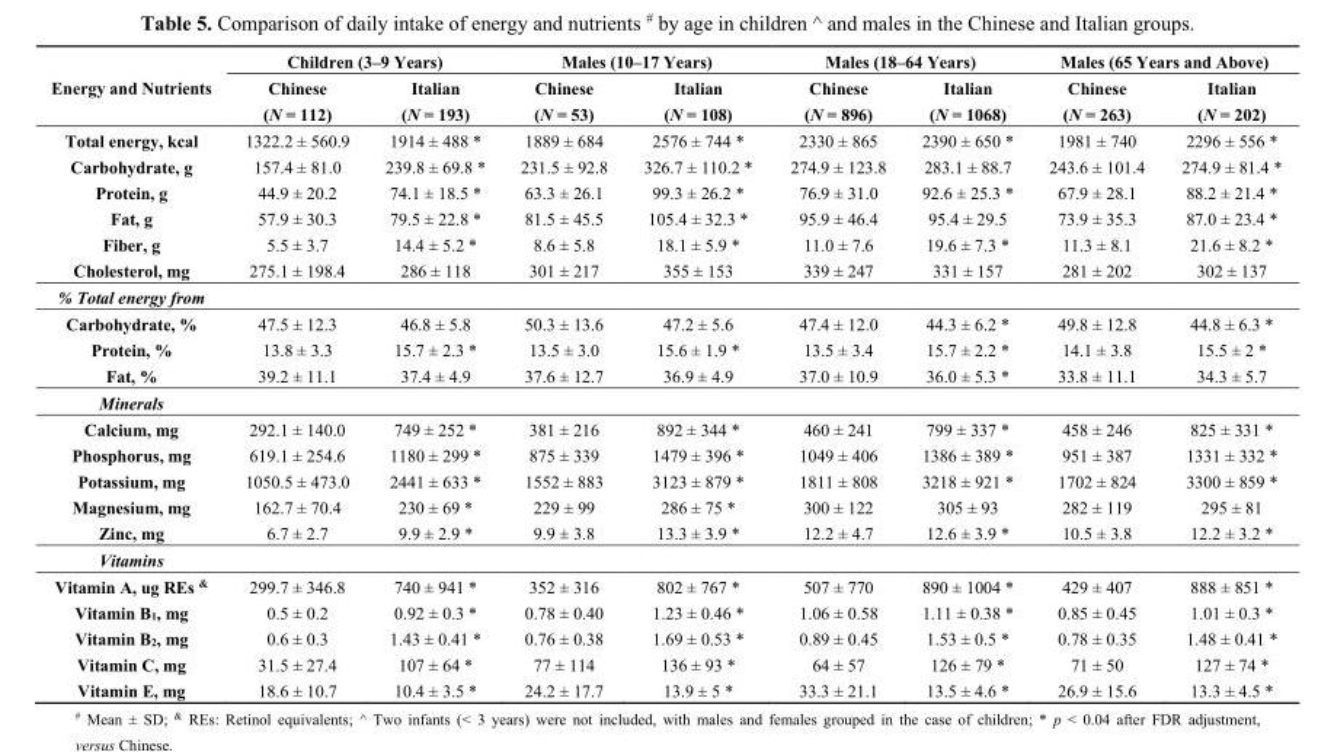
<table><thead><tr><td rowspan="2">Energy and Nutrients</td><td colspan="2">Children (3–9 Years)</td><td colspan="2">Males (10–17 Years)</td><td colspan="2">Males (18–64 Years)</td><td colspan="2">Males (65 Years and Above)</td></tr><tr><td>Chinese (N = 112)</td><td>Italian (N = 193)</td><td>Chinese (N = 53)</td><td>Italian (N = 108)</td><td>Chinese (N = 896)</td><td>Italian (N = 1068)</td><td>Chinese (N = 263)</td><td>Italian (N = 202)</td></tr></thead><tbody><tr><td>Total energy, kcal</td><td>1322.2 ± 560.9</td><td>1914 ± 488 *</td><td>1889 ± 684</td><td>2576 ± 744 *</td><td>2330 ± 865</td><td>2390 ± 650 *</td><td>1981 ± 740</td><td>2296 ± 556 *</td></tr><tr><td>Carbohydrate, g</td><td>157.4 ± 81.0</td><td>239.8 ± 69.8 *</td><td>231.5 ± 92.8</td><td>326.7 ± 110.2 *</td><td>274.9 ± 123.8</td><td>283.1 ± 88.7</td><td>243.6 ± 101.4</td><td>274.9 ± 81.4 *</td></tr><tr><td>Protein, g</td><td>44.9 ± 20.2</td><td>74.1 ± 18.5 *</td><td>63.3 ± 26.1</td><td>99.3 ± 26.2 *</td><td>76.9 ± 31.0</td><td>92.6 ± 25.3 *</td><td>67.9 ± 28.1</td><td>88.2 ± 21.4 *</td></tr><tr><td>Fat, g</td><td>57.9 ± 30.3</td><td>79.5 ± 22.8 *</td><td>81.5 ± 45.5</td><td>105.4 ± 32.3 *</td><td>95.9 ± 46.4</td><td>95.4 ± 29.5</td><td>73.9 ± 35.3</td><td>87.0 ± 23.4 *</td></tr><tr><td>Fiber, g</td><td>5.5 ± 3.7</td><td>14.4 ± 5.2 *</td><td>8.6 ± 5.8</td><td>18.1 ± 5.9 *</td><td>11.0 ± 7.6</td><td>19.6 ± 7.3 *</td><td>11.3 ± 8.1</td><td>21.6 ± 8.2 *</td></tr><tr><td>Cholesterol, mg</td><td>275.1 ± 198.4</td><td>286 ± 118</td><td>301 ± 217</td><td>355 ± 153</td><td>339 ± 247</td><td>331 ± 157</td><td>281 ± 202</td><td>302 ± 137</td></tr><tr><td colspan="9">% Total energy from</td></tr><tr><td>Carbohydrate, %</td><td>47.5 ± 12.3</td><td>46.8 ± 5.8</td><td>50.3 ± 13.6</td><td>47.2 ± 5.6</td><td>47.4 ± 12.0</td><td>44.3 ± 6.2 *</td><td>49.8 ± 12.8</td><td>44.8 ± 6.3 *</td></tr><tr><td>Protein, %</td><td>13.8 ± 3.3</td><td>15.7 ± 2.3 *</td><td>13.5 ± 3.0</td><td>15.6 ± 1.9 *</td><td>13.5 ± 3.4</td><td>15.7 ± 2.2 *</td><td>14.1 ± 3.8</td><td>15.5 ± 2 *</td></tr><tr><td>Fat, %</td><td>39.2 ± 11.1</td><td>37.4 ± 4.9</td><td>37.6 ± 12.7</td><td>36.9 ± 4.9</td><td>37.0 ± 10.9</td><td>36.0 ± 5.3 *</td><td>33.8 ± 11.1</td><td>34.3 ± 5.7</td></tr><tr><td colspan="9">Minerals</td></tr><tr><td>Calcium, mg</td><td>292.1 ± 140.0</td><td>749 ± 252 *</td><td>381 ± 216</td><td>892 ± 344 *</td><td>460 ± 241</td><td>799 ± 337 *</td><td>458 ± 246</td><td>825 ± 331 *</td></tr><tr><td>Phosphorus, mg</td><td>619.1 ± 254.6</td><td>1180 ± 299 *</td><td>875 ± 339</td><td>1479 ± 396 *</td><td>1049 ± 406</td><td>1386 ± 389 *</td><td>951 ± 387</td><td>1331 ± 332 *</td></tr><tr><td>Potassium, mg</td><td>1050.5 ± 473.0</td><td>2441 ± 633 *</td><td>1552 ± 883</td><td>3123 ± 879 *</td><td>1811 ± 808</td><td>3218 ± 921 *</td><td>1702 ± 824</td><td>3300 ± 859 *</td></tr><tr><td>Magnesium, mg</td><td>162.7 ± 70.4</td><td>230 ± 69 *</td><td>229 ± 99</td><td>286 ± 75 *</td><td>300 ± 122</td><td>305 ± 93</td><td>282 ± 119</td><td>295 ± 81</td></tr><tr><td>Zinc, mg</td><td>6.7 ± 2.7</td><td>9.9 ± 2.9 *</td><td>9.9 ± 3.8</td><td>13.3 ± 3.9 *</td><td>12.2 ± 4.7</td><td>12.6 ± 3.9 *</td><td>10.5 ± 3.8</td><td>12.2 ± 3.2 *</td></tr><tr><td colspan="9">Vitamins</td></tr><tr><td>Vitamin A, ug REs <sup>&amp;</sup></td><td>299.7 ± 346.8</td><td>740 ± 941 *</td><td>352 ± 316</td><td>802 ± 767 *</td><td>507 ± 770</td><td>890 ± 1004 *</td><td>429 ± 407</td><td>888 ± 851 *</td></tr><tr><td>Vitamin B<sub>1</sub>, mg</td><td>0.5 ± 0.2</td><td>0.92 ± 0.3 *</td><td>0.78 ± 0.40</td><td>1.23 ± 0.46 *</td><td>1.06 ± 0.58</td><td>1.11 ± 0.38 *</td><td>0.85 ± 0.45</td><td>1.01 ± 0.3 *</td></tr><tr><td>Vitamin B<sub>2</sub>, mg</td><td>0.6 ± 0.3</td><td>1.43 ± 0.41 *</td><td>0.76 ± 0.38</td><td>1.69 ± 0.53 *</td><td>0.89 ± 0.45</td><td>1.53 ± 0.5 *</td><td>0.78 ± 0.35</td><td>1.48 ± 0.41 *</td></tr><tr><td>Vitamin C, mg</td><td>31.5 ± 27.4</td><td>107 ± 64 *</td><td>77 ± 114</td><td>136 ± 93 *</td><td>64 ± 57</td><td>126 ± 79 *</td><td>71 ± 50</td><td>127 ± 74 *</td></tr><tr><td>Vitamin E, mg</td><td>18.6 ± 10.7</td><td>10.4 ± 3.5 *</td><td>24.2 ± 17.7</td><td>13.9 ± 5 *</td><td>33.3 ± 21.1</td><td>13.5 ± 4.6 *</td><td>26.9 ± 15.6</td><td>13.3 ± 4.5 *</td></tr></tbody></table>